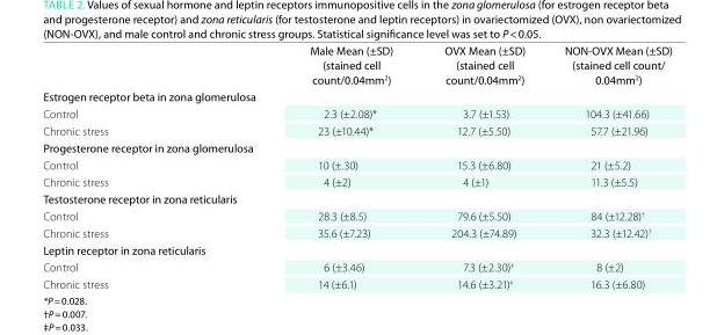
<table><thead><tr><td></td><td>Male Mean (±Sd) (stained cell count/0.04mm<sup>2</sup>)</td><td>oVX Mean (±Sd) (stained cell count/0.04mm<sup>2</sup>)</td><td>non-oVX Mean (±Sd) (stained cell count/ 0.04mm<sup>2</sup>)</td></tr></thead><tbody><tr><td colspan="4">estrogen receptor beta in zona glomerulosa</td></tr><tr><td>Control</td><td>2.3 (±2.08)*</td><td>3.7 (±1.53)</td><td>104.3 (±41.66)</td></tr><tr><td>Chronic stress</td><td>23 (±10.44)*</td><td>12.7 (±5.50)</td><td>57.7 (±21.96)</td></tr><tr><td colspan="4">Progesterone receptor in zona glomerulosa</td></tr><tr><td>Control</td><td>10 (±.30)</td><td>15.3 (±6.80)</td><td>21 (±5.2)</td></tr><tr><td>Chronic stress</td><td>4 (±2)</td><td>4 (±1)</td><td>11.3 (±5.5)</td></tr><tr><td colspan="4">testosterone receptor in zona reticularis</td></tr><tr><td>Control</td><td>28.3 (±8.5)</td><td>79.6 (±5.50)</td><td>84 (±12.28)<sup>†</sup></td></tr><tr><td>Chronic stress</td><td>35.6 (±7.23)</td><td>204.3 (±74.89)</td><td>32.3 (±12.42)<sup>†</sup></td></tr><tr><td colspan="4">Leptin receptor in zona reticularis</td></tr><tr><td>Control</td><td>6 (±3.46)</td><td>7.3 (±2.30)<sup>‡</sup></td><td>8 (±2)</td></tr><tr><td>Chronic stress</td><td>14 (±6.1)</td><td>14.6 (±3.21)<sup>‡</sup></td><td>16.3 (±6.80)</td></tr></tbody></table>